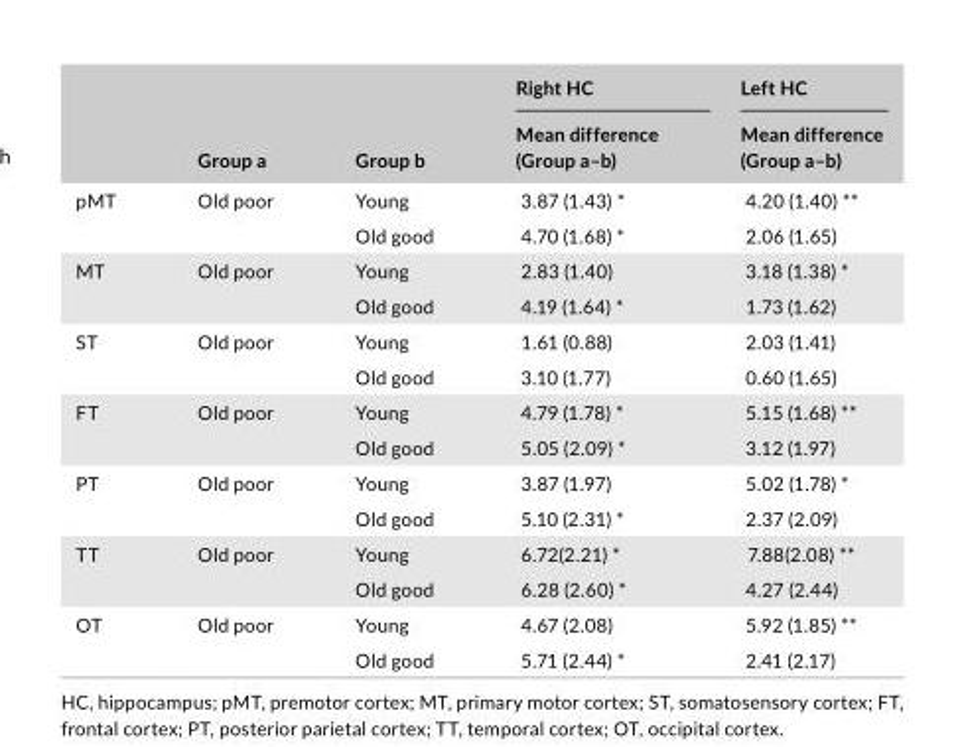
<table><thead><tr><td rowspan="2"></td><td rowspan="2">Group a</td><td rowspan="2">Group b</td><td rowspan="2">Right HC Mean difference (Group a–b)</td><td rowspan="2">Left HC Mean difference (Group a–b)</td></tr><tr></tr></thead><tbody><tr><td rowspan="2">pMT</td><td rowspan="2">Old poor</td><td>Young</td><td>3.87 (1.43) *</td><td>4.20 (1.40) **</td></tr><tr><td>Old good</td><td>4.70 (1.68) *</td><td>2.06 (1.65)</td></tr><tr><td rowspan="2">MT</td><td rowspan="2">Old poor</td><td>Young</td><td>2.83 (1.40)</td><td>3.18 (1.38) *</td></tr><tr><td>Old good</td><td>4.19 (1.64) *</td><td>1.73 (1.62)</td></tr><tr><td rowspan="2">ST</td><td rowspan="2">Old poor</td><td>Young</td><td>1.61 (0.88)</td><td>2.03 (1.41)</td></tr><tr><td>Old good</td><td>3.10 (1.77)</td><td>0.60 (1.65)</td></tr><tr><td rowspan="2">FT</td><td rowspan="2">Old poor</td><td>Young</td><td>4.79 (1.78) *</td><td>5.15 (1.68) **</td></tr><tr><td>Old good</td><td>5.05 (2.09) *</td><td>3.12 (1.97)</td></tr><tr><td rowspan="2">PT</td><td rowspan="2">Old poor</td><td>Young</td><td>3.87 (1.97)</td><td>5.02 (1.78) *</td></tr><tr><td>Old good</td><td>5.10 (2.31) *</td><td>2.37 (2.09)</td></tr><tr><td rowspan="2">TT</td><td rowspan="2">Old poor</td><td>Young</td><td>6.72(2.21) *</td><td>7.88(2.08) **</td></tr><tr><td>Old good</td><td>6.28 (2.60) *</td><td>4.27 (2.44)</td></tr><tr><td rowspan="2">OT</td><td rowspan="2">Old poor</td><td>Young</td><td>4.67 (2.08)</td><td>5.92 (1.85) **</td></tr><tr><td>Old good</td><td>5.71 (2.44) *</td><td>2.41 (2.17)</td></tr></tbody></table>